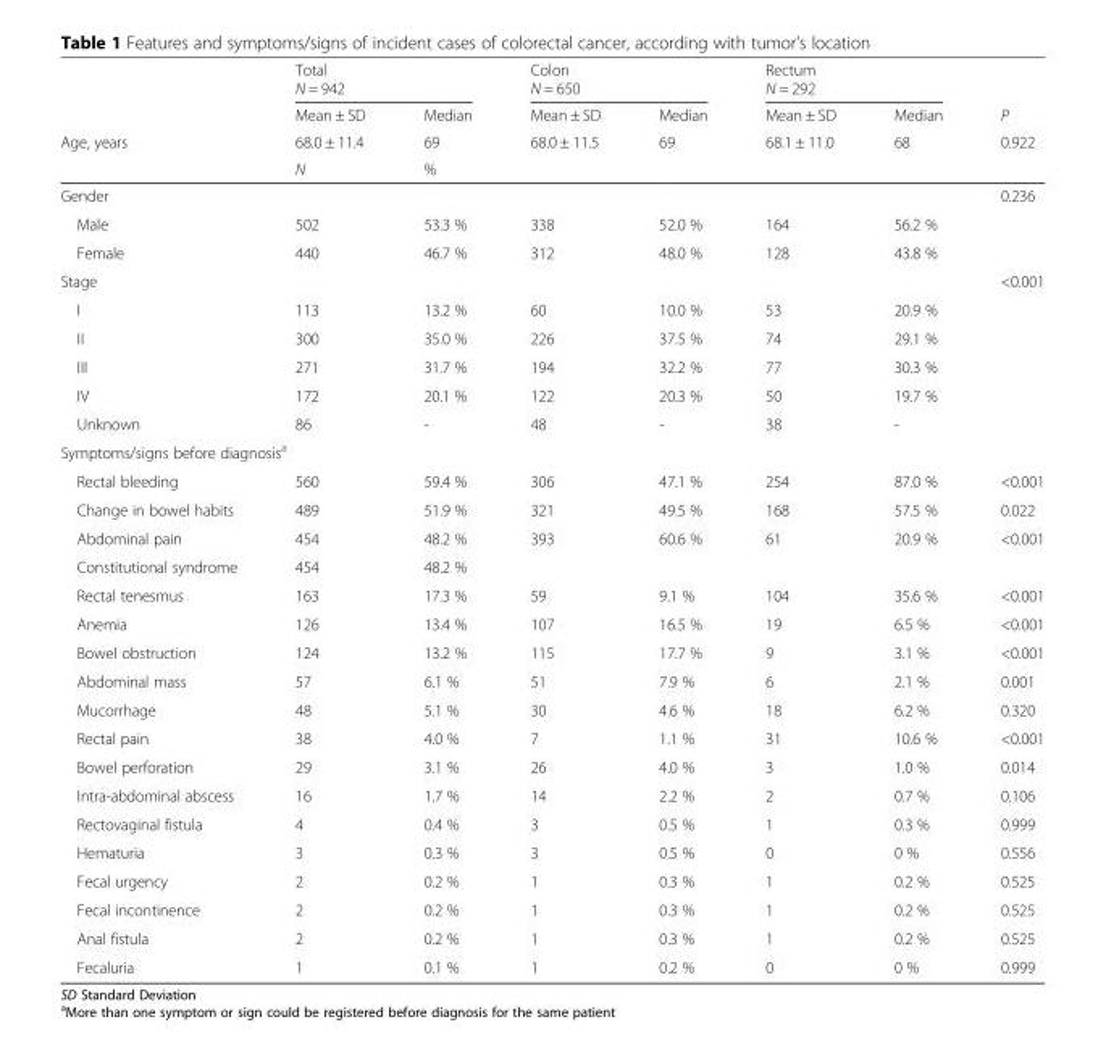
<table><thead><tr><td rowspan="4">Age, years</td><td colspan="2">Total N = 942</td><td colspan="2">Colon N = 650</td><td colspan="2">Rectum N = 292</td><td rowspan="4">P 0.922</td></tr><tr><td rowspan="3">Mean ± SD 68.0 ± 11.4 N</td><td rowspan="3">Median 69 %</td><td rowspan="3">Mean ± SD 68.0 ± 11.5</td><td rowspan="3">Median 69</td><td rowspan="3">Mean ± SD 68.1 ± 11.0</td><td rowspan="3">Median 68</td></tr><tr></tr><tr></tr></thead><tbody><tr><td>Gender</td><td></td><td></td><td></td><td></td><td></td><td></td><td>0.236</td></tr><tr><td>Male</td><td>502</td><td>53.3 %</td><td>338</td><td>52.0 %</td><td>164</td><td>56.2 %</td><td></td></tr><tr><td>Female</td><td>440</td><td>46.7 %</td><td>312</td><td>48.0 %</td><td>128</td><td>43.8 %</td><td></td></tr><tr><td>Stage</td><td></td><td></td><td></td><td></td><td></td><td></td><td>&lt;0.001</td></tr><tr><td>I</td><td>113</td><td>13.2 %</td><td>60</td><td>10.0 %</td><td>53</td><td>20.9 %</td><td></td></tr><tr><td>II</td><td>300</td><td>35.0 %</td><td>226</td><td>37.5 %</td><td>74</td><td>29.1 %</td><td></td></tr><tr><td>III</td><td>271</td><td>31.7 %</td><td>194</td><td>32.2 %</td><td>77</td><td>30.3 %</td><td></td></tr><tr><td>IV</td><td>172</td><td>20.1 %</td><td>122</td><td>20.3 %</td><td>50</td><td>19.7 %</td><td></td></tr><tr><td>Unknown</td><td>86</td><td>-</td><td>48</td><td>-</td><td>38</td><td>-</td><td></td></tr><tr><td colspan="8">Symptoms/signs before diagnosis<sup>a</sup></td></tr><tr><td>Rectal bleeding</td><td>560</td><td>59.4 %</td><td>306</td><td>47.1 %</td><td>254</td><td>87.0 %</td><td>&lt;0.001</td></tr><tr><td>Change in bowel habits</td><td>489</td><td>51.9 %</td><td>321</td><td>49.5 %</td><td>168</td><td>57.5 %</td><td>0.022</td></tr><tr><td>Abdominal pain</td><td>454</td><td>48.2 %</td><td>393</td><td>60.6 %</td><td>61</td><td>20.9 %</td><td>&lt;0.001</td></tr><tr><td>Constitutional syndrome</td><td>454</td><td>48.2 %</td><td></td><td></td><td></td><td></td><td></td></tr><tr><td>Rectal tenesmus</td><td>163</td><td>17.3 %</td><td>59</td><td>9.1 %</td><td>104</td><td>35.6 %</td><td>&lt;0.001</td></tr><tr><td>Anemia</td><td>126</td><td>13.4 %</td><td>107</td><td>16.5 %</td><td>19</td><td>6.5 %</td><td>&lt;0.001</td></tr><tr><td>Bowel obstruction</td><td>124</td><td>13.2 %</td><td>115</td><td>17.7 %</td><td>9</td><td>3.1 %</td><td>&lt;0.001</td></tr><tr><td>Abdominal mass</td><td>57</td><td>6.1 %</td><td>51</td><td>7.9 %</td><td>6</td><td>2.1 %</td><td>0.001</td></tr><tr><td>Mucorrhage</td><td>48</td><td>5.1 %</td><td>30</td><td>4.6 %</td><td>18</td><td>6.2 %</td><td>0.320</td></tr><tr><td>Rectal pain</td><td>38</td><td>4.0 %</td><td>7</td><td>1.1 %</td><td>31</td><td>10.6 %</td><td>&lt;0.001</td></tr><tr><td>Bowel perforation</td><td>29</td><td>3.1 %</td><td>26</td><td>4.0 %</td><td>3</td><td>1.0 %</td><td>0.014</td></tr><tr><td>Intra-abdominal abscess</td><td>16</td><td>1.7 %</td><td>14</td><td>2.2 %</td><td>2</td><td>0.7 %</td><td>0.106</td></tr><tr><td>Rectovaginal fistula</td><td>4</td><td>0.4 %</td><td>3</td><td>0.5 %</td><td>1</td><td>0.3 %</td><td>0.999</td></tr><tr><td>Hematuria</td><td>3</td><td>0.3 %</td><td>3</td><td>0.5 %</td><td>0</td><td>0 %</td><td>0.556</td></tr><tr><td>Fecal urgency</td><td>2</td><td>0.2 %</td><td>1</td><td>0.3 %</td><td>1</td><td>0.2 %</td><td>0.525</td></tr><tr><td>Fecal incontinence</td><td>2</td><td>0.2 %</td><td>1</td><td>0.3 %</td><td>1</td><td>0.2 %</td><td>0.525</td></tr><tr><td>Anal fistula</td><td>2</td><td>0.2 %</td><td>1</td><td>0.3 %</td><td>1</td><td>0.2 %</td><td>0.525</td></tr><tr><td>Fecaluria</td><td>1</td><td>0.1 %</td><td>1</td><td>0.2 %</td><td>0</td><td>0 %</td><td>0.999</td></tr></tbody></table>